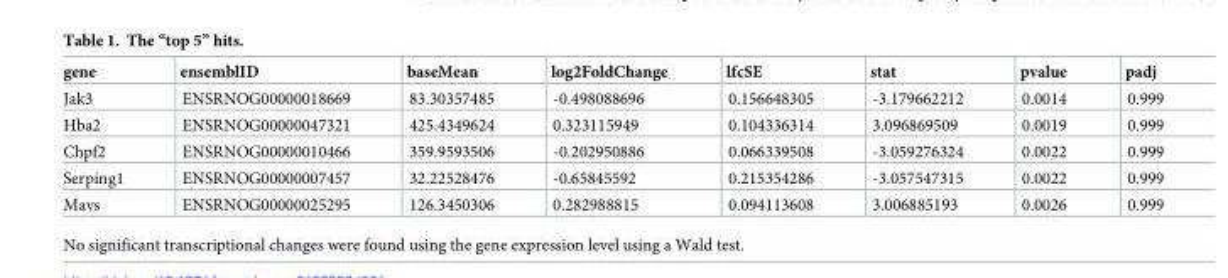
<table><thead><tr><td>gene</td><td>ensemblID</td><td>baseMean</td><td>log2FoldChange</td><td>lfcSE</td><td>stat</td><td>pvalue</td><td>padj</td></tr></thead><tbody><tr><td>Jak3</td><td>ENSRNOG00000018669</td><td>83.30357485</td><td>-0.498088696</td><td>0.156648305</td><td>-3.179662212</td><td>0.0014</td><td>0.999</td></tr><tr><td>Hba2</td><td>ENSRNOG00000047321</td><td>425.4349624</td><td>0.323115949</td><td>0.104336314</td><td>3.096869509</td><td>0.0019</td><td>0.999</td></tr><tr><td>Chpf2</td><td>ENSRNOG00000010466</td><td>359.9593506</td><td>-0.202950886</td><td>0.066339508</td><td>-3.059276324</td><td>0.0022</td><td>0.999</td></tr><tr><td>Serping1</td><td>ENSRNOG00000007457</td><td>32.22528476</td><td>-0.65845592</td><td>0.215354286</td><td>-3.057547315</td><td>0.0022</td><td>0.999</td></tr><tr><td>Mavs</td><td>ENSRNOG00000025295</td><td>126.3450306</td><td>0.282988815</td><td>0.094113608</td><td>3.006885193</td><td>0.0026</td><td>0.999</td></tr></tbody></table>